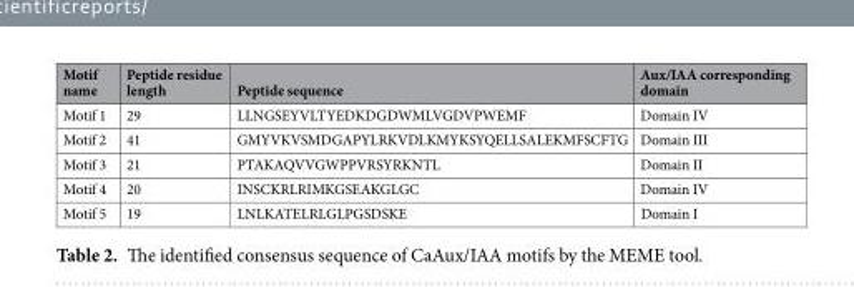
<table><thead><tr><td>Motif name</td><td>Peptide residue length</td><td>Peptide sequence</td><td>Aux/IAA corresponding domain</td></tr></thead><tbody><tr><td>Motif 1</td><td>29</td><td>LLNGSEYVLTYEDKDGDWMLVGDVPWEMF</td><td>Domain IV</td></tr><tr><td>Motif 2</td><td>41</td><td>GMYVKVSMDGAPYLRKVDLKMYKSYQELLSALEKMFSCFTG</td><td>Domain III</td></tr><tr><td>Motif 3</td><td>21</td><td>PTAKAQVVGWPPVRSYRKNTL</td><td>Domain II</td></tr><tr><td>Motif 4</td><td>20</td><td>INSCKRLRIMKGSEAKGLGC</td><td>Domain IV</td></tr><tr><td>Motif 5</td><td>19</td><td>LNLKATELRLGLPGSDSKE</td><td>Domain I</td></tr></tbody></table>